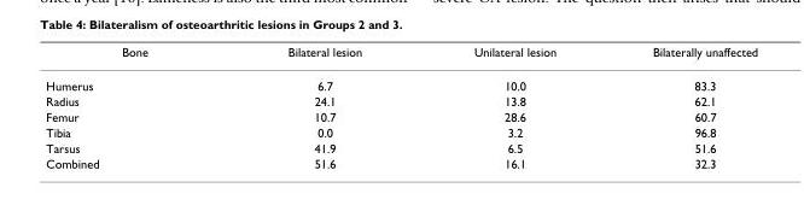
<table><thead><tr><td>Bone</td><td>Bilateral lesion</td><td>Unilateral lesion</td><td>Bilaterally unaffected</td></tr></thead><tbody><tr><td>Humerus</td><td>6.7</td><td>10.0</td><td>83.3</td></tr><tr><td>Radius</td><td>24.1</td><td>13.8</td><td>62.1</td></tr><tr><td>Femur</td><td>10.7</td><td>28.6</td><td>60.7</td></tr><tr><td>Tibia</td><td>0.0</td><td>3.2</td><td>96.8</td></tr><tr><td>Tarsus</td><td>41.9</td><td>6.5</td><td>51.6</td></tr><tr><td>Combined</td><td>51.6</td><td>16.1</td><td>32.3</td></tr></tbody></table>